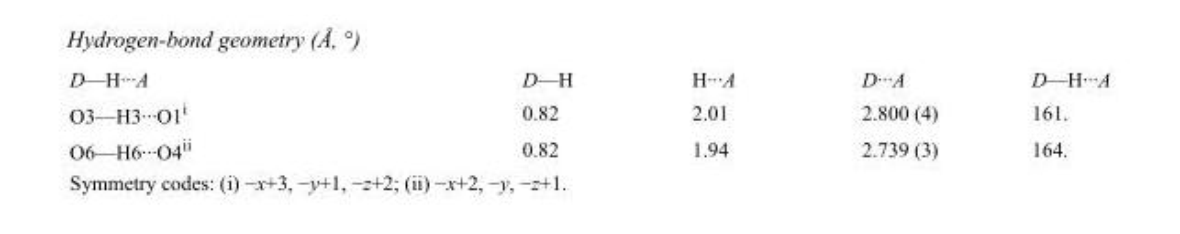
<table><tbody><tr><td>D—H···A</td><td>D—H</td><td>H···A</td><td>D···A</td><td>D—H···A</td></tr><tr><td>O3—H3···O1<sup>i</sup></td><td>0.82</td><td>2.01</td><td>2.800 (4)</td><td>161.</td></tr><tr><td>O6—H6···O4<sup>ii</sup></td><td>0.82</td><td>1.94</td><td>2.739 (3)</td><td>164.</td></tr></tbody></table>